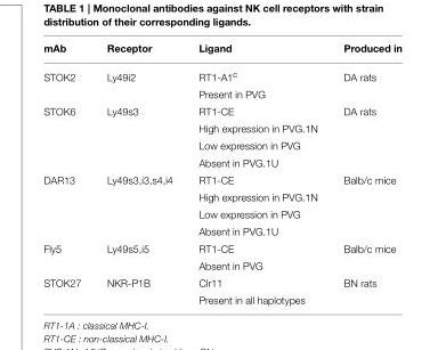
<table><thead><tr><td>mAb</td><td>Receptor</td><td>Ligand</td><td>Produced in</td></tr></thead><tbody><tr><td rowspan="2">STOK2</td><td>Ly49i2</td><td>RT1-A1<sup>c</sup></td><td>DA rats</td></tr><tr><td></td><td>Present in PVG</td><td></td></tr><tr><td rowspan="4">STOK6</td><td>Ly49s3</td><td>RT1-CE</td><td>DA rats</td></tr><tr><td></td><td>High expression in PVG.1N</td><td></td></tr><tr><td></td><td>Low expression in PVG</td><td></td></tr><tr><td></td><td>Absent in PVG.1U</td><td></td></tr><tr><td rowspan="4">DAR13</td><td>Ly49s3,i3,s4,i4</td><td>RT1-CE</td><td>Balb/c mice</td></tr><tr><td></td><td>High expression in PVG.1N</td><td></td></tr><tr><td></td><td>Low expression in PVG</td><td></td></tr><tr><td></td><td>Absent in PVG.1U</td><td></td></tr><tr><td rowspan="2">Fly5</td><td>Ly49s5,i5</td><td>RT1-CE</td><td>Balb/c mice</td></tr><tr><td></td><td>Absent in PVG</td><td></td></tr><tr><td rowspan="2">STOK27</td><td>NKR-P1B</td><td>Clr11</td><td>BN rats</td></tr><tr><td></td><td>Present in all haplotypes</td><td></td></tr></tbody></table>